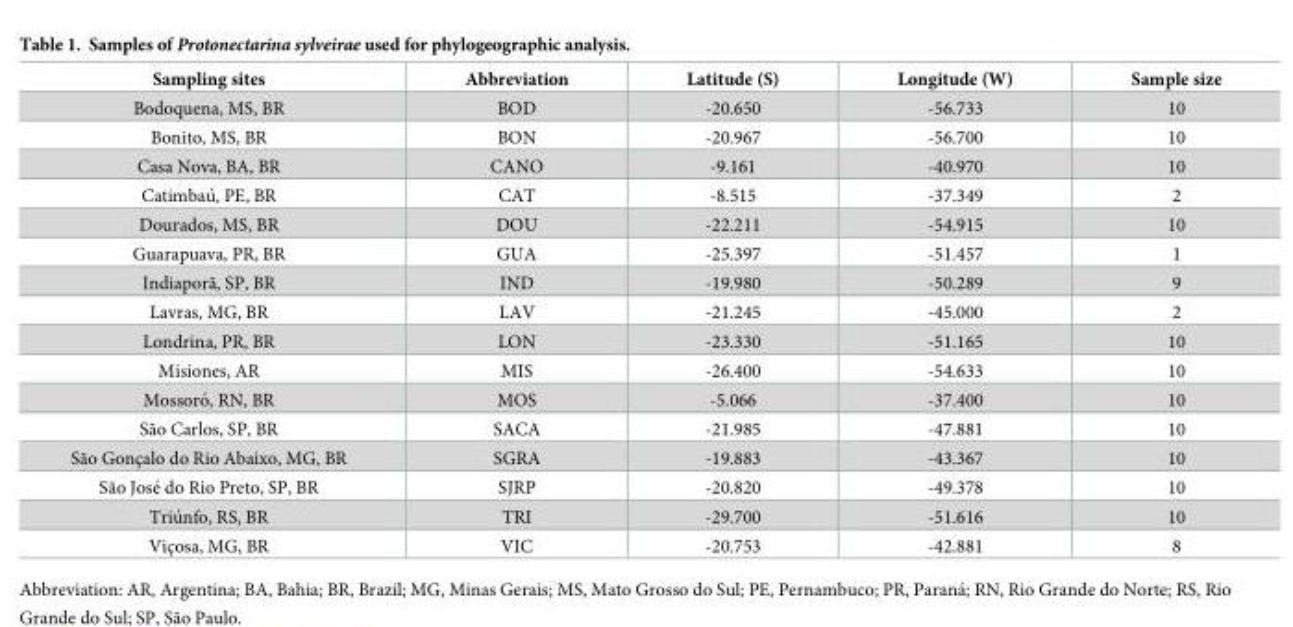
<table><thead><tr><td>Sampling sites</td><td>Abbreviation</td><td>Latitude (S)</td><td>Longitude (W)</td><td>Sample size</td></tr></thead><tbody><tr><td>Bodoquena, MS, BR</td><td>BOD</td><td>-20.650</td><td>-56.733</td><td>10</td></tr><tr><td>Bonito, MS, BR</td><td>BON</td><td>-20.967</td><td>-56.700</td><td>10</td></tr><tr><td>Casa Nova, BA, BR</td><td>CANO</td><td>-9.161</td><td>-40.970</td><td>10</td></tr><tr><td>Catimbau´, PE, BR</td><td>CAT</td><td>-8.515</td><td>-37.349</td><td>2</td></tr><tr><td>Dourados, MS, BR</td><td>DOU</td><td>-22.211</td><td>-54.915</td><td>10</td></tr><tr><td>Guarapuava, PR, BR</td><td>GUA</td><td>-25.397</td><td>-51.457</td><td>1</td></tr><tr><td>Indiaporã, SP, BR</td><td>IND</td><td>-19.980</td><td>-50.289</td><td>9</td></tr><tr><td>Lavras, MG, BR</td><td>LAV</td><td>-21.245</td><td>-45.000</td><td>2</td></tr><tr><td>Londrina, PR, BR</td><td>LON</td><td>-23.330</td><td>-51.165</td><td>10</td></tr><tr><td>Misiones, AR</td><td>MIS</td><td>-26.400</td><td>-54.633</td><td>10</td></tr><tr><td>Mossoro´, RN, BR</td><td>MOS</td><td>-5.066</td><td>-37.400</td><td>10</td></tr><tr><td>São Carlos, SP, BR</td><td>SACA</td><td>-21.985</td><td>-47.881</td><td>10</td></tr><tr><td>São Gonc¸alo do Rio Abaixo, MG, BR</td><td>SGRA</td><td>-19.883</td><td>-43.367</td><td>10</td></tr><tr><td>São Jose´ do Rio Preto, SP, BR</td><td>SJRP</td><td>-20.820</td><td>-49.378</td><td>10</td></tr><tr><td>Triu´nfo, RS, BR</td><td>TRI</td><td>-29.700</td><td>-51.616</td><td>10</td></tr><tr><td>Vic¸osa, MG, BR</td><td>VIC</td><td>-20.753</td><td>-42.881</td><td>8</td></tr></tbody></table>